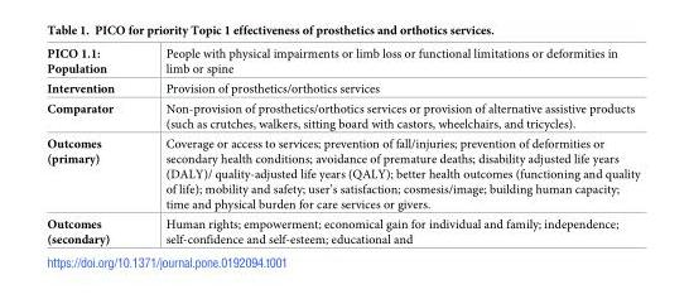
<table><tbody><tr><td>PICO 1.1: Population</td><td>People with physical impairments or limb loss or functional limitations or deformities in limb or spine</td></tr><tr><td>Intervention</td><td>Provision of prosthetics/orthotics services</td></tr><tr><td>Comparator</td><td>Non-provision of prosthetics/orthotics services or provision of alternative assistive products (such as crutches, walkers, sitting board with castors, wheelchairs, and tricycles).</td></tr><tr><td>Outcomes (primary)</td><td>Coverage or access to services; prevention of fall/injuries; prevention of deformities or secondary health conditions; avoidance of premature deaths; disability adjusted life years (DALY)/ quality-adjusted life years (QALY); better health outcomes (functioning and quality of life); mobility and safety; user’s satisfaction; cosmesis/image; building human capacity; time and physical burden for care services or givers.</td></tr><tr><td>Outcomes (secondary)</td><td>Human rights; empowerment; economical gain for individual and family; independence; self-confidence and self-esteem; educational and</td></tr></tbody></table>